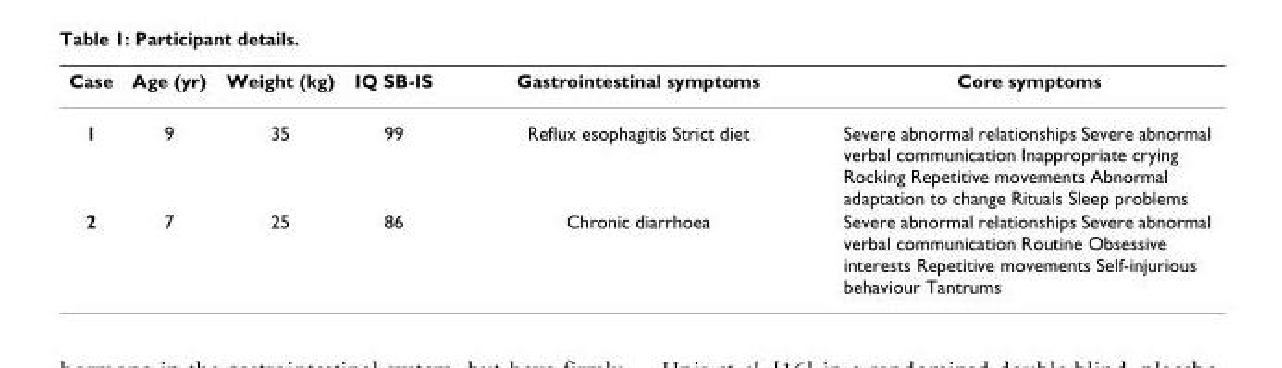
<table><thead><tr><td>Case</td><td>Age (yr)</td><td>Weight (kg)</td><td>IQ SB-IS</td><td>Gastrointestinal symptoms</td><td>Core symptoms</td></tr></thead><tbody><tr><td>1</td><td>9</td><td>35</td><td>99</td><td>Reflux esophagitis Strict diet</td><td>Severe abnormal relationships Severe abnormal verbal communication Inappropriate crying Rocking Repetitive movements Abnormal adaptation to change Rituals Sleep problems</td></tr><tr><td>2</td><td>7</td><td>25</td><td>86</td><td>Chronic diarrhoea</td><td>Severe abnormal relationships Severe abnormal verbal communication Routine Obsessive interests Repetitive movements Self-injurious behaviour Tantrums</td></tr></tbody></table>